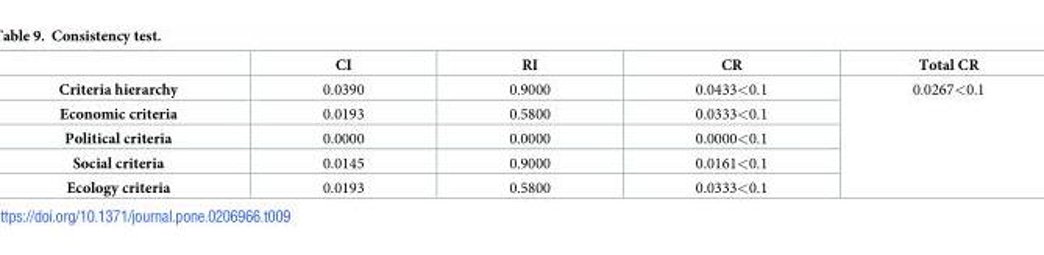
<table><thead><tr><td></td><td>CI</td><td>RI</td><td>CR</td><td>Total CR</td></tr></thead><tbody><tr><td>Criteria hierarchy</td><td>0.0390</td><td>0.9000</td><td>0.0433&lt;0.1</td><td rowspan="5">0.0267&lt;0.1</td></tr><tr><td>Economic criteria</td><td>0.0193</td><td>0.5800</td><td>0.0333&lt;0.1</td></tr><tr><td>Political criteria</td><td>0.0000</td><td>0.0000</td><td>0.0000&lt;0.1</td></tr><tr><td>Social criteria</td><td>0.0145</td><td>0.9000</td><td>0.0161&lt;0.1</td></tr><tr><td>Ecology criteria</td><td>0.0193</td><td>0.5800</td><td>0.0333&lt;0.1</td></tr></tbody></table>